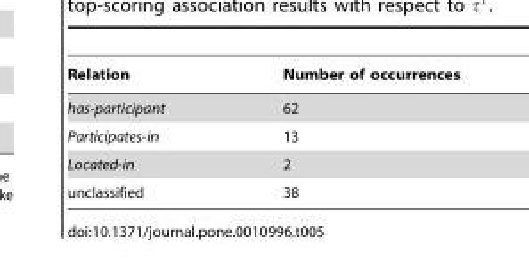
<table><thead><tr><td>Relation</td><td>Number of occurrences</td></tr></thead><tbody><tr><td>has-participant</td><td>62</td></tr><tr><td>Participates-in</td><td>13</td></tr><tr><td>Located-in</td><td>2</td></tr><tr><td>unclassified</td><td>38</td></tr></tbody></table>